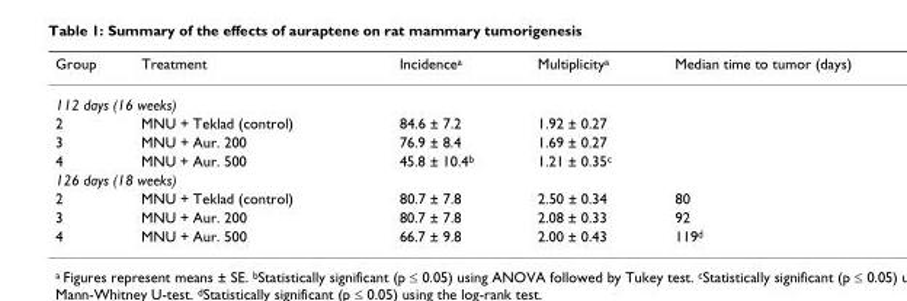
<table><thead><tr><td>Group</td><td>Treatment</td><td>Incidence<sup>a</sup></td><td>Multiplicity<sup>a</sup></td><td>Median time to tumor (days)</td></tr></thead><tbody><tr><td colspan="5">112 days (16 weeks)</td></tr><tr><td>2</td><td>MNU + Teklad (control)</td><td>84.6 ± 7.2</td><td>1.92 ± 0.27</td><td></td></tr><tr><td>3</td><td>MNU + Aur. 200</td><td>76.9 ± 8.4</td><td>1.69 ± 0.27</td><td></td></tr><tr><td>4</td><td>MNU + Aur. 500</td><td>45.8 ± 10.4<sup>b</sup></td><td>1.21 ± 0.35<sup>c</sup></td><td></td></tr><tr><td colspan="5">126 days (18 weeks)</td></tr><tr><td>2</td><td>MNU + Teklad (control)</td><td>80.7 ± 7.8</td><td>2.50 ± 0.34</td><td>80</td></tr><tr><td>3</td><td>MNU + Aur. 200</td><td>80.7 ± 7.8</td><td>2.08 ± 0.33</td><td>92</td></tr><tr><td>4</td><td>MNU + Aur. 500</td><td>66.7 ± 9.8</td><td>2.00 ± 0.43</td><td>119<sup>d</sup></td></tr></tbody></table>